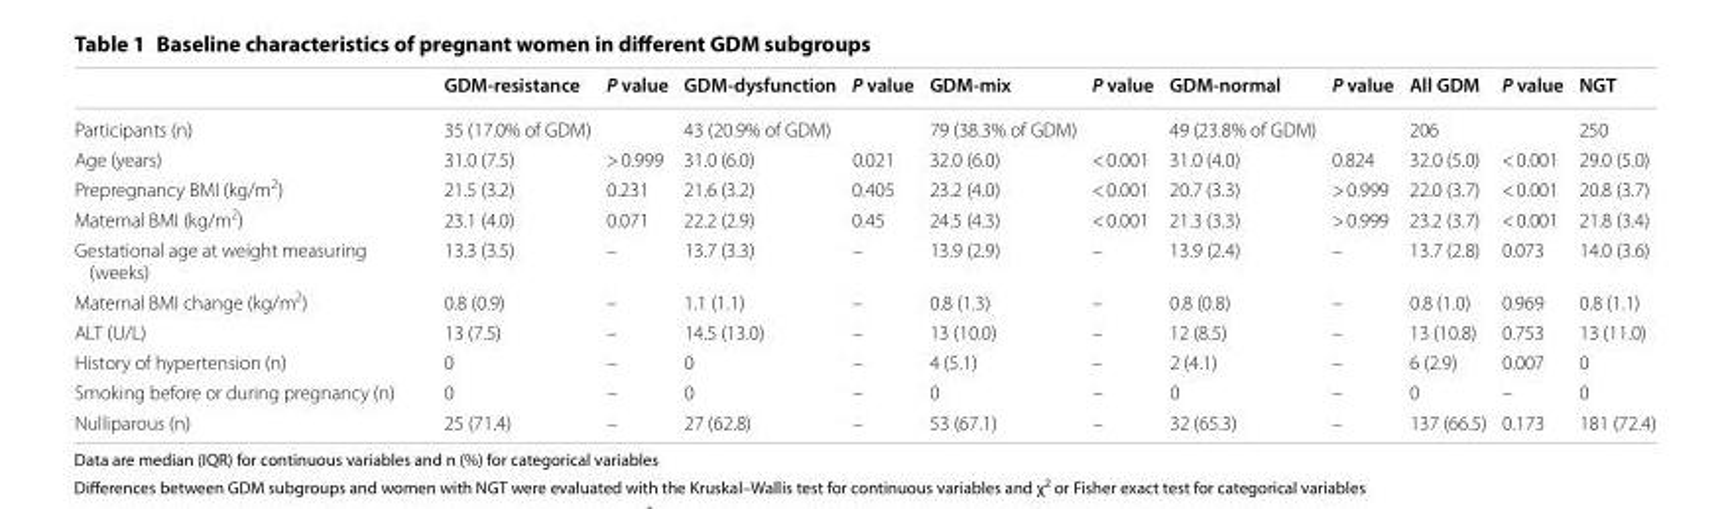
<table><thead><tr><td></td><td>GDM-resistance</td><td>P value</td><td>GDM-dysfunction</td><td>P value</td><td>GDM-mix</td><td>P value</td><td>GDM-normal</td><td>P value</td><td>All GDM</td><td>P value</td><td>NGT</td></tr></thead><tbody><tr><td>Participants (n)</td><td>35 (17.0% of GDM)</td><td></td><td>43 (20.9% of GDM)</td><td></td><td>79 (38.3% of GDM)</td><td></td><td>49 (23.8% of GDM)</td><td></td><td>206</td><td></td><td>250</td></tr><tr><td>Age (years)</td><td>31.0 (7.5)</td><td>&gt; 0.999</td><td>31.0 (6.0)</td><td>0.021</td><td>32.0 (6.0)</td><td>&lt; 0.001</td><td>31.0 (4.0)</td><td>0.824</td><td>32.0 (5.0)</td><td>&lt; 0.001</td><td>29.0 (5.0)</td></tr><tr><td>Prepregnancy BMI (kg/m<sup>2</sup>)</td><td>21.5 (3.2)</td><td>0.231</td><td>21.6 (3.2)</td><td>0.405</td><td>23.2 (4.0)</td><td>&lt; 0.001</td><td>20.7 (3.3)</td><td>&gt; 0.999</td><td>22.0 (3.7)</td><td>&lt; 0.001</td><td>20.8 (3.7)</td></tr><tr><td>Maternal BMI (kg/m<sup>2</sup>)</td><td>23.1 (4.0)</td><td>0.071</td><td>22.2 (2.9)</td><td>0.45</td><td>24.5 (4.3)</td><td>&lt; 0.001</td><td>21.3 (3.3)</td><td>&gt; 0.999</td><td>23.2 (3.7)</td><td>&lt; 0.001</td><td>21.8 (3.4)</td></tr><tr><td>Gestational age at weight measuring (weeks)</td><td>13.3 (3.5)</td><td>–</td><td>13.7 (3.3)</td><td>–</td><td>13.9 (2.9)</td><td>–</td><td>13.9 (2.4)</td><td>–</td><td>13.7 (2.8)</td><td>0.073</td><td>14.0 (3.6)</td></tr><tr><td>Maternal BMI change (kg/m<sup>2</sup>)</td><td>0.8 (0.9)</td><td>–</td><td>1.1 (1.1)</td><td>–</td><td>0.8 (1.3)</td><td>–</td><td>0.8 (0.8)</td><td>–</td><td>0.8 (1.0)</td><td>0.969</td><td>0.8 (1.1)</td></tr><tr><td>ALT (U/L)</td><td>13 (7.5)</td><td>–</td><td>14.5 (13.0)</td><td>–</td><td>13 (10.0)</td><td>–</td><td>12 (8.5)</td><td>–</td><td>13 (10.8)</td><td>0.753</td><td>13 (11.0)</td></tr><tr><td>History of hypertension (n)</td><td>0</td><td>–</td><td>0</td><td>–</td><td>4 (5.1)</td><td>–</td><td>2 (4.1)</td><td>–</td><td>6 (2.9)</td><td>0.007</td><td>0</td></tr><tr><td>Smoking before or during pregnancy (n)</td><td>0</td><td>–</td><td>0</td><td>–</td><td>0</td><td>–</td><td>0</td><td>–</td><td>0</td><td>–</td><td>0</td></tr><tr><td>Nulliparous (n)</td><td>25 (71.4)</td><td>–</td><td>27 (62.8)</td><td>–</td><td>53 (67.1)</td><td>–</td><td>32 (65.3)</td><td>–</td><td>137 (66.5)</td><td>0.173</td><td>181 (72.4)</td></tr></tbody></table>